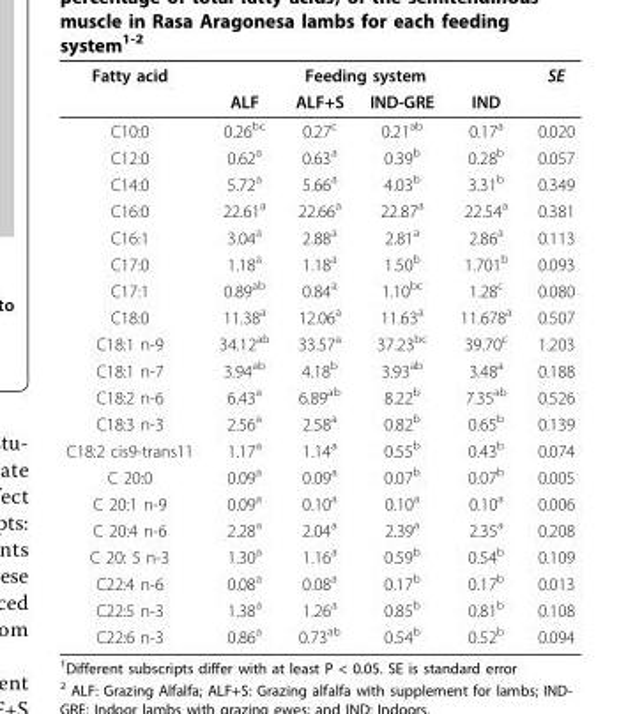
<table><thead><tr><td rowspan="2">Fatty acid</td><td colspan="4">Feeding system</td><td rowspan="2">SE</td></tr><tr><td>ALF</td><td>ALF+S</td><td>IND-GRE</td><td>IND</td></tr></thead><tbody><tr><td>C10:0</td><td>0.26<sup>bc</sup></td><td>0.27<sup>c</sup></td><td>0.21<sup>ab</sup></td><td>0.17<sup>a</sup></td><td>0.020</td></tr><tr><td>C12:0</td><td>0.62<sup>a</sup></td><td>0.63<sup>a</sup></td><td>0.39<sup>b</sup></td><td>0.28<sup>b</sup></td><td>0.057</td></tr><tr><td>C14:0</td><td>5.72<sup>a</sup></td><td>5.66<sup>a</sup></td><td>4.03<sup>b</sup></td><td>3.31<sup>b</sup></td><td>0.349</td></tr><tr><td>C16:0</td><td>22.61<sup>a</sup></td><td>22.66<sup>a</sup></td><td>22.87<sup>a</sup></td><td>22.54<sup>a</sup></td><td>0.381</td></tr><tr><td>C16:1</td><td>3.04<sup>a</sup></td><td>2.88<sup>a</sup></td><td>2.81<sup>a</sup></td><td>2.86<sup>a</sup></td><td>0.113</td></tr><tr><td>C17:0</td><td>1.18<sup>a</sup></td><td>1.18<sup>a</sup></td><td>1.50<sup>b</sup></td><td>1.701<sup>b</sup></td><td>0.093</td></tr><tr><td>C17:1</td><td>0.89<sup>ab</sup></td><td>0.84<sup>a</sup></td><td>1.10<sup>bc</sup></td><td>1.28<sup>c</sup></td><td>0.080</td></tr><tr><td>C18:0</td><td>11.38<sup>a</sup></td><td>12.06<sup>a</sup></td><td>11.63<sup>a</sup></td><td>11.678<sup>a</sup></td><td>0.507</td></tr><tr><td>C18:1 n-9</td><td>34.12<sup>ab</sup></td><td>33.57<sup>a</sup></td><td>37.23<sup>bc</sup></td><td>39.70<sup>c</sup></td><td>1.203</td></tr><tr><td>C18:1 n-7</td><td>3.94<sup>ab</sup></td><td>4.18<sup>b</sup></td><td>3.93<sup>ab</sup></td><td>3.48<sup>a</sup></td><td>0.188</td></tr><tr><td>C18:2 n-6</td><td>6.43<sup>a</sup></td><td>6.89<sup>ab</sup></td><td>8.22<sup>b</sup></td><td>7.35<sup>ab</sup></td><td>0.526</td></tr><tr><td>C18:3 n-3</td><td>2.56<sup>a</sup></td><td>2.58<sup>a</sup></td><td>0.82<sup>b</sup></td><td>0.65<sup>b</sup></td><td>0.139</td></tr><tr><td>C18:2 cis9-trans11</td><td>1.17<sup>a</sup></td><td>1.14<sup>a</sup></td><td>0.55<sup>b</sup></td><td>0.43<sup>b</sup></td><td>0.074</td></tr><tr><td>C 20:0</td><td>0.09<sup>a</sup></td><td>0.09<sup>a</sup></td><td>0.07<sup>b</sup></td><td>0.07<sup>b</sup></td><td>0.005</td></tr><tr><td>C 20:1 n-9</td><td>0.09<sup>a</sup></td><td>0.10<sup>a</sup></td><td>0.10<sup>a</sup></td><td>0.10<sup>a</sup></td><td>0.006</td></tr><tr><td>C 20:4 n-6</td><td>2.28<sup>a</sup></td><td>2.04<sup>a</sup></td><td>2.39<sup>a</sup></td><td>2.35<sup>a</sup></td><td>0.208</td></tr><tr><td>C 20: 5 n-3</td><td>1.30<sup>a</sup></td><td>1.16<sup>a</sup></td><td>0.59<sup>b</sup></td><td>0.54<sup>b</sup></td><td>0.109</td></tr><tr><td>C22:4 n-6</td><td>0.08<sup>a</sup></td><td>0.08<sup>a</sup></td><td>0.17<sup>b</sup></td><td>0.17<sup>b</sup></td><td>0.013</td></tr><tr><td>C22:5 n-3</td><td>1.38<sup>a</sup></td><td>1.26<sup>a</sup></td><td>0.85<sup>b</sup></td><td>0.81<sup>b</sup></td><td>0.108</td></tr><tr><td>C22:6 n-3</td><td>0.86<sup>a</sup></td><td>0.73<sup>ab</sup></td><td>0.54<sup>b</sup></td><td>0.52<sup>b</sup></td><td>0.094</td></tr></tbody></table>